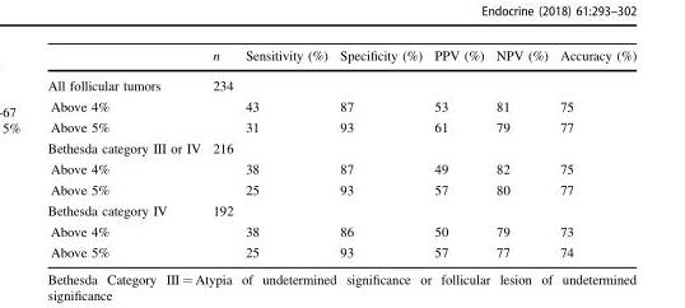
<table><thead><tr><td></td><td>n</td><td>Sensitivity (%)</td><td>Specificity (%)</td><td>PPV (%)</td><td>NPV (%)</td><td>Accuracy (%)</td></tr></thead><tbody><tr><td>All follicular tumors</td><td>234</td><td></td><td></td><td></td><td></td><td></td></tr><tr><td>Above 4%</td><td></td><td>43</td><td>87</td><td>53</td><td>81</td><td>75</td></tr><tr><td>Above 5%</td><td></td><td>31</td><td>93</td><td>61</td><td>79</td><td>77</td></tr><tr><td>Bethesda category III or IV</td><td>216</td><td></td><td></td><td></td><td></td><td></td></tr><tr><td>Above 4%</td><td></td><td>38</td><td>87</td><td>49</td><td>82</td><td>75</td></tr><tr><td>Above 5%</td><td></td><td>25</td><td>93</td><td>57</td><td>80</td><td>77</td></tr><tr><td>Bethesda category IV</td><td>192</td><td></td><td></td><td></td><td></td><td></td></tr><tr><td>Above 4%</td><td></td><td>38</td><td>86</td><td>50</td><td>79</td><td>73</td></tr><tr><td>Above 5%</td><td></td><td>25</td><td>93</td><td>57</td><td>77</td><td>74</td></tr></tbody></table>